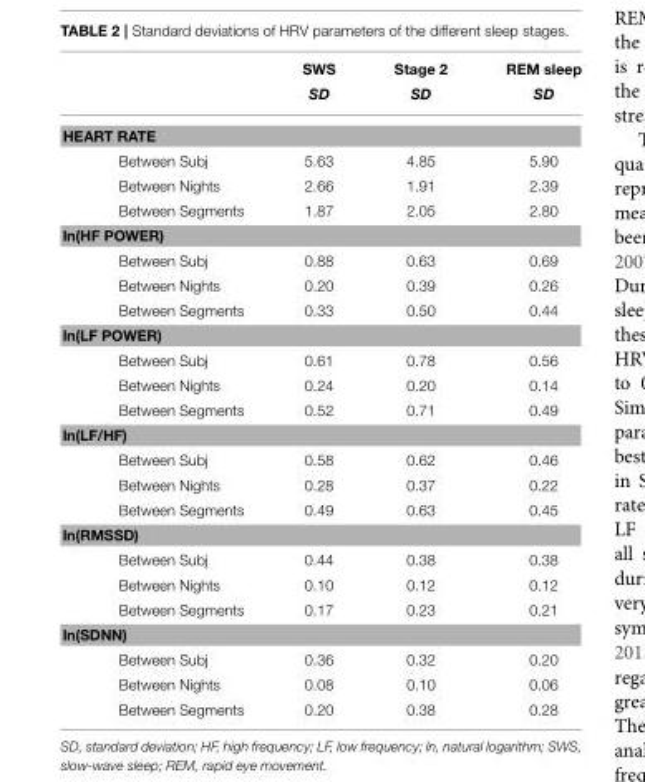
<table><thead><tr><td></td><td>SWS SD</td><td>Stage 2 SD</td><td>REM sleep SD</td></tr></thead><tbody><tr><td colspan="4">HEART RATE</td></tr><tr><td>Between Subj</td><td>5.63</td><td>4.85</td><td>5.90</td></tr><tr><td>Between Nights</td><td>2.66</td><td>1.91</td><td>2.39</td></tr><tr><td>Between Segments</td><td>1.87</td><td>2.05</td><td>2.80</td></tr><tr><td colspan="4">ln(HF POWER)</td></tr><tr><td>Between Subj</td><td>0.88</td><td>0.63</td><td>0.69</td></tr><tr><td>Between Nights</td><td>0.20</td><td>0.39</td><td>0.26</td></tr><tr><td>Between Segments</td><td>0.33</td><td>0.50</td><td>0.44</td></tr><tr><td colspan="4">ln(LF POWER)</td></tr><tr><td>Between Subj</td><td>0.61</td><td>0.78</td><td>0.56</td></tr><tr><td>Between Nights</td><td>0.24</td><td>0.20</td><td>0.14</td></tr><tr><td>Between Segments</td><td>0.52</td><td>0.71</td><td>0.49</td></tr><tr><td colspan="4">ln(LF/HF)</td></tr><tr><td>Between Subj</td><td>0.58</td><td>0.62</td><td>0.46</td></tr><tr><td>Between Nights</td><td>0.28</td><td>0.37</td><td>0.22</td></tr><tr><td>Between Segments</td><td>0.49</td><td>0.63</td><td>0.45</td></tr><tr><td colspan="4">ln(RMSSD)</td></tr><tr><td>Between Subj</td><td>0.44</td><td>0.38</td><td>0.38</td></tr><tr><td>Between Nights</td><td>0.10</td><td>0.12</td><td>0.12</td></tr><tr><td>Between Segments</td><td>0.17</td><td>0.23</td><td>0.21</td></tr><tr><td colspan="4">ln(SDNN)</td></tr><tr><td>Between Subj</td><td>0.36</td><td>0.32</td><td>0.20</td></tr><tr><td>Between Nights</td><td>0.08</td><td>0.10</td><td>0.06</td></tr><tr><td>Between Segments</td><td>0.20</td><td>0.38</td><td>0.28</td></tr></tbody></table>